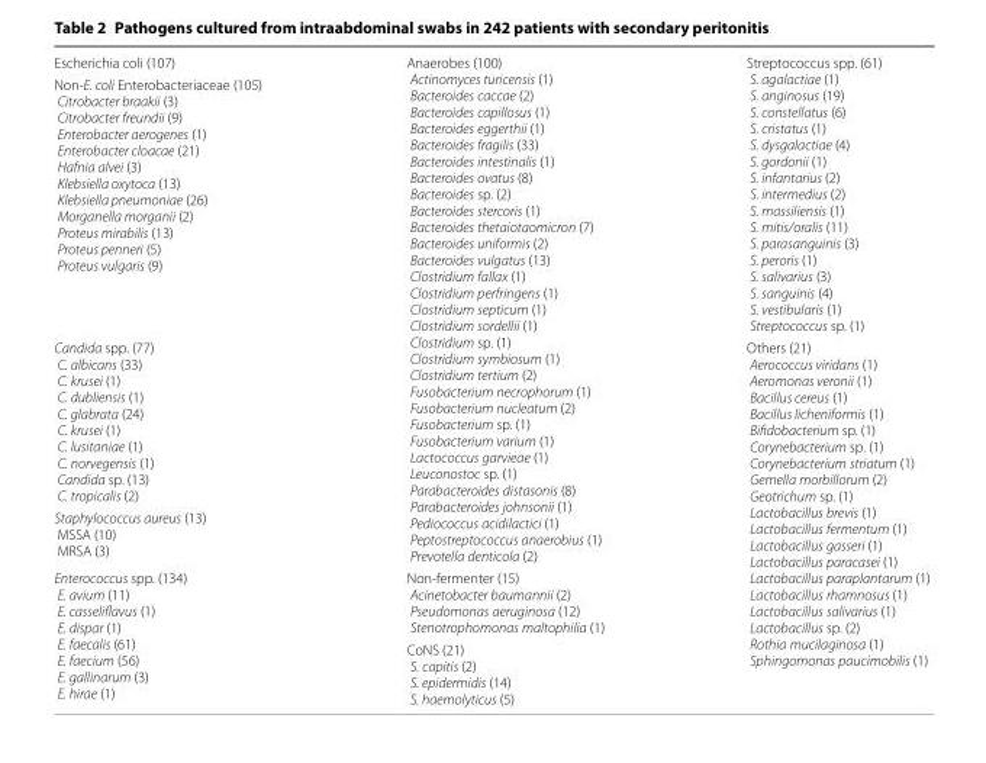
<table><tbody><tr><td>Escherichia coli (107)</td><td rowspan="4">Anaerobes (100) Actinomyces turicensis (1) Bacteroides caccae (2) Bacteroides capillosus (1) Bacteroides eggerthii (1) Bacteroides fragilis (33) Bacteroides intestinalis (1) Bacteroides ovatus (8) Bacteroides sp. (2) Bacteroides stercoris (1) Bacteroides thetaiotaomicron (7) Bacteroides uniformis (2) Bacteroides vulgatus (13) Clostridium fallax (1) Clostridium perfringens (1) Clostridium septicum (1) Clostridium sordellii (1) Clostridium sp. (1) Clostridium symbiosum (1) Clostridium tertium (2) Fusobacterium necrophorum (1) Fusobacterium nucleatum (2) Fusobacterium sp. (1) Fusobacterium varium (1) Lactococcus garvieae (1) Leuconostoc sp. (1) Parabacteroides distasonis (8) Parabacteroides johnsonii (1) Pediococcus acidilactici (1) Peptostreptococcus anaerobius (1) Prevotella denticola (2)</td><td rowspan="2">Streptococcus spp. (61) S. agalactiae (1) S. anginosus (19) S. constellatus (6) S. cristatus (1) S. dysgalactiae (4) S. gordonii (1) S. infantarius (2) S. intermedius (2) S. massiliensis (1) S. mitis/oralis (11) S. parasanguinis (3) S. peroris (1) S. salivarius (3) S. sanguinis (4) S. vestibularis (1) Streptococcus sp. (1)</td></tr><tr><td>Non-E. coli Enterobacteriaceae (105) Citrobacter braakii (3) Citrobacter freundii (9) Enterobacter aerogenes (1) Enterobacter cloacae (21) Hafnia alvei (3) Klebsiella oxytoca (13) Klebsiella pneumoniae (26) Morganella morganii (2) Proteus mirabilis (13) Proteus penneri (5) Proteus vulgaris (9)</td></tr><tr><td>Candida spp. (77) C. albicans (33) C. krusei (1) C. dubliensis (1) C. glabrata (24) C. krusei (1) C. lusitaniae (1) C. norvegensis (1) Candida sp. (13) C. tropicalis (2)</td><td rowspan="4">Others (21) Aerococcus viridans (1) Aeromonas veronii (1) Bacillus cereus (1) Bacillus licheniformis (1) Bifidobacterium sp. (1) Corynebacterium sp. (1) Corynebacterium striatum (1) Gemella morbillorum (2) Geotrichum sp. (1) Lactobacillus brevis (1) Lactobacillus fermentum (1) Lactobacillus gasseri (1) Lactobacillus paracasei (1) Lactobacillus paraplantarum (1) Lactobacillus rhamnosus (1) Lactobacillus salivarius (1) Lactobacillus sp. (2) Rothia mucilaginosa (1) Sphingomonas paucimobilis (1)</td></tr><tr><td>Staphylococcus aureus (13) MSSA (10) MRSA (3)</td></tr><tr><td rowspan="2">Enterococcus spp. (134) E. avium (11) E. casseliflavus (1) E. dispar (1) E. faecalis (61) E. faecium (56) E. gallinarum (3) E. hirae (1)</td><td>Non-fermenter (15) Acinetobacter baumannii (2) Pseudomonas aeruginosa (12) Stenotrophomonas maltophilia (1)</td></tr><tr><td>CoNS (21) S. capitis (2) S. epidermidis (14) S. haemolyticus (5)</td></tr></tbody></table>